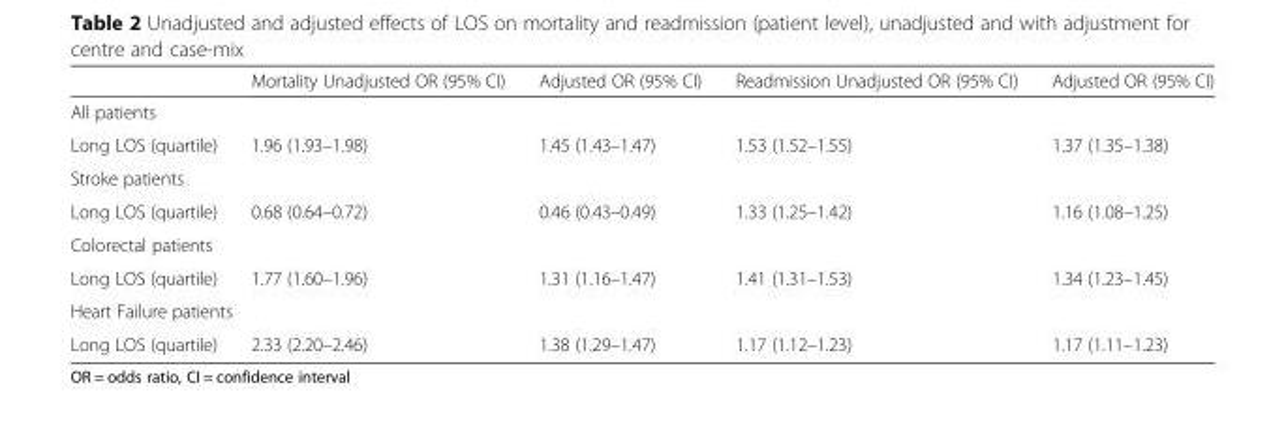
<table><thead><tr><td></td><td>Mortality Unadjusted OR (95% CI)</td><td>Adjusted OR (95% CI)</td><td>Readmission Unadjusted OR (95% CI)</td><td>Adjusted OR (95% CI)</td></tr></thead><tbody><tr><td colspan="5">All patients</td></tr><tr><td>Long LOS (quartile)</td><td>1.96 (1.93–1.98)</td><td>1.45 (1.43–1.47)</td><td>1.53 (1.52–1.55)</td><td>1.37 (1.35–1.38)</td></tr><tr><td colspan="5">Stroke patients</td></tr><tr><td>Long LOS (quartile)</td><td>0.68 (0.64–0.72)</td><td>0.46 (0.43–0.49)</td><td>1.33 (1.25–1.42)</td><td>1.16 (1.08–1.25)</td></tr><tr><td colspan="5">Colorectal patients</td></tr><tr><td>Long LOS (quartile)</td><td>1.77 (1.60–1.96)</td><td>1.31 (1.16–1.47)</td><td>1.41 (1.31–1.53)</td><td>1.34 (1.23–1.45)</td></tr><tr><td colspan="5">Heart Failure patients</td></tr><tr><td>Long LOS (quartile)</td><td>2.33 (2.20–2.46)</td><td>1.38 (1.29–1.47)</td><td>1.17 (1.12–1.23)</td><td>1.17 (1.11–1.23)</td></tr></tbody></table>